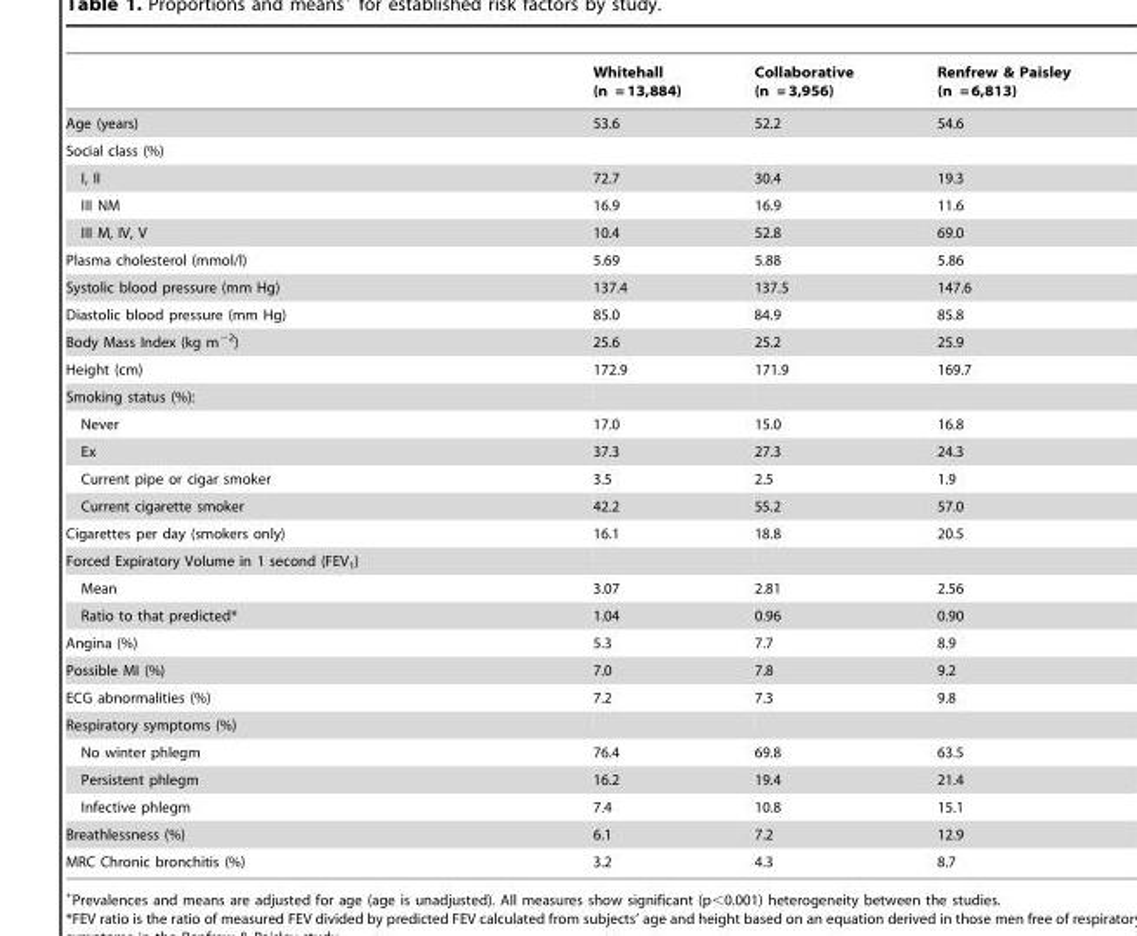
<table><thead><tr><td></td><td>Whitehall (n = 13,884)</td><td>Collaborative (n = 3,956)</td><td>Renfrew &amp; Paisley (n = 6,813)</td></tr></thead><tbody><tr><td>Age (years)</td><td>53.6</td><td>52.2</td><td>54.6</td></tr><tr><td colspan="4">Social class (%)</td></tr><tr><td>I, II</td><td>72.7</td><td>30.4</td><td>19.3</td></tr><tr><td>III NM</td><td>16.9</td><td>16.9</td><td>11.6</td></tr><tr><td>III M, IV, V</td><td>10.4</td><td>52.8</td><td>69.0</td></tr><tr><td>Plasma cholesterol (mmol/l)</td><td>5.69</td><td>5.88</td><td>5.86</td></tr><tr><td>Systolic blood pressure (mm Hg)</td><td>137.4</td><td>137.5</td><td>147.6</td></tr><tr><td>Diastolic blood pressure (mm Hg)</td><td>85.0</td><td>84.9</td><td>85.8</td></tr><tr><td>Body Mass Index (kg m<sup>−2</sup>)</td><td>25.6</td><td>25.2</td><td>25.9</td></tr><tr><td>Height (cm)</td><td>172.9</td><td>171.9</td><td>169.7</td></tr><tr><td colspan="4">Smoking status (%):</td></tr><tr><td>Never</td><td>17.0</td><td>15.0</td><td>16.8</td></tr><tr><td>Ex</td><td>37.3</td><td>27.3</td><td>24.3</td></tr><tr><td>Current pipe or cigar smoker</td><td>3.5</td><td>2.5</td><td>1.9</td></tr><tr><td>Current cigarette smoker</td><td>42.2</td><td>55.2</td><td>57.0</td></tr><tr><td>Cigarettes per day (smokers only)</td><td>16.1</td><td>18.8</td><td>20.5</td></tr><tr><td colspan="4">Forced Expiratory Volume in 1 second (FEV<sub>1</sub>)</td></tr><tr><td>Mean</td><td>3.07</td><td>2.81</td><td>2.56</td></tr><tr><td>Ratio to that predicted*</td><td>1.04</td><td>0.96</td><td>0.90</td></tr><tr><td>Angina (%)</td><td>5.3</td><td>7.7</td><td>8.9</td></tr><tr><td>Possible MI (%)</td><td>7.0</td><td>7.8</td><td>9.2</td></tr><tr><td>ECG abnormalities (%)</td><td>7.2</td><td>7.3</td><td>9.8</td></tr><tr><td colspan="4">Respiratory symptoms (%)</td></tr><tr><td>No winter phlegm</td><td>76.4</td><td>69.8</td><td>63.5</td></tr><tr><td>Persistent phlegm</td><td>16.2</td><td>19.4</td><td>21.4</td></tr><tr><td>Infective phlegm</td><td>7.4</td><td>10.8</td><td>15.1</td></tr><tr><td>Breathlessness (%)</td><td>6.1</td><td>7.2</td><td>12.9</td></tr><tr><td>MRC Chronic bronchitis (%)</td><td>3.2</td><td>4.3</td><td>8.7</td></tr></tbody></table>